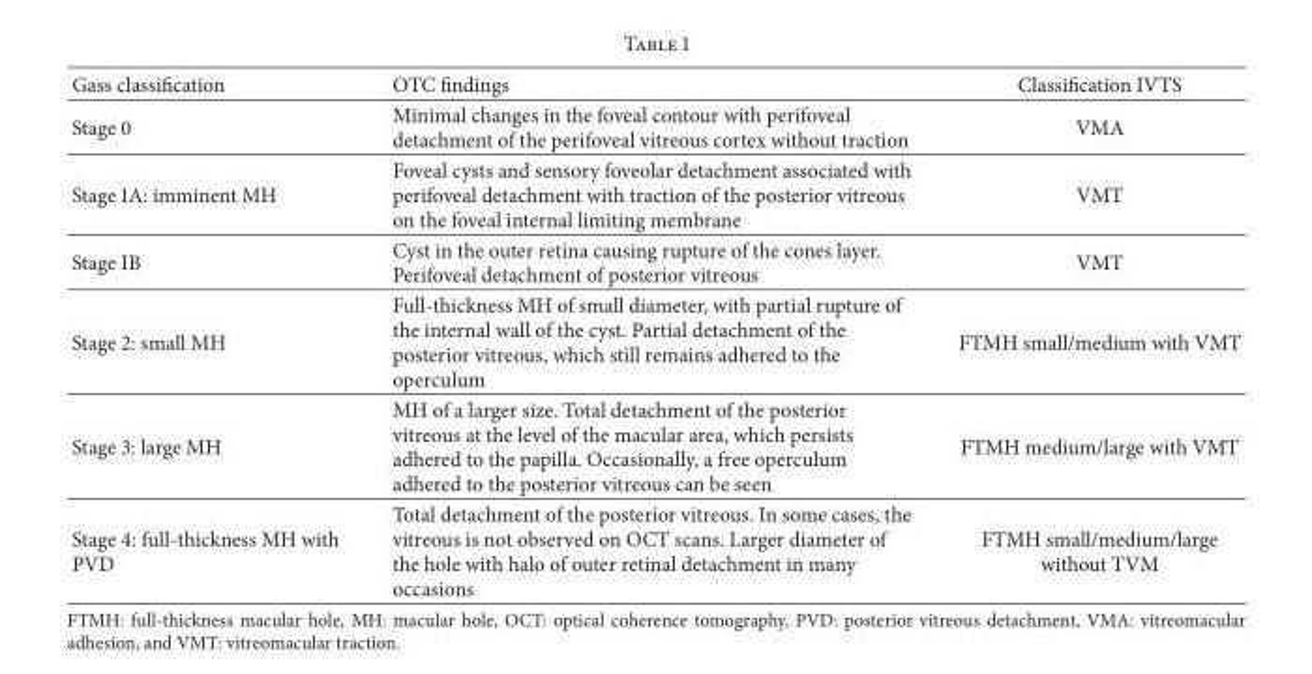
<table><thead><tr><td>Gass classification</td><td>OTC findings</td><td>Classification IVTS</td></tr></thead><tbody><tr><td>Stage 0</td><td>Minimal changes in the foveal contour with perifoveal detachment of the perifoveal vitreous cortex without traction</td><td>VMA</td></tr><tr><td>Stage 1A: imminent MH</td><td>Foveal cysts and sensory foveolar detachment associated with perifoveal detachment with traction of the posterior vitreous on the foveal internal limiting membrane</td><td>VMT</td></tr><tr><td>Stage IB</td><td>Cyst in the outer retina causing rupture of the cones layer. Perifoveal detachment of posterior vitreous</td><td>VMT</td></tr><tr><td>Stage 2: small MH</td><td>Full-thickness MH of small diameter, with partial rupture of the internal wall of the cyst. Partial detachment of the posterior vitreous, which still remains adhered to the operculum</td><td>FTMH small/medium with VMT</td></tr><tr><td>Stage 3: large MH</td><td>MH of a larger size. Total detachment of the posterior vitreous at the level of the macular area, which persists adhered to the papilla. Occasionally, a free operculum adhered to the posterior vitreous can be seen</td><td>FTMH medium/large with VMT</td></tr><tr><td>Stage 4: full-thickness MH with PVD</td><td>Total detachment of the posterior vitreous. In some cases, the vitreous is not observed on OCT scans. Larger diameter of the hole with halo of outer retinal detachment in many occasions</td><td>FTMH small/medium/large without TVM</td></tr></tbody></table>